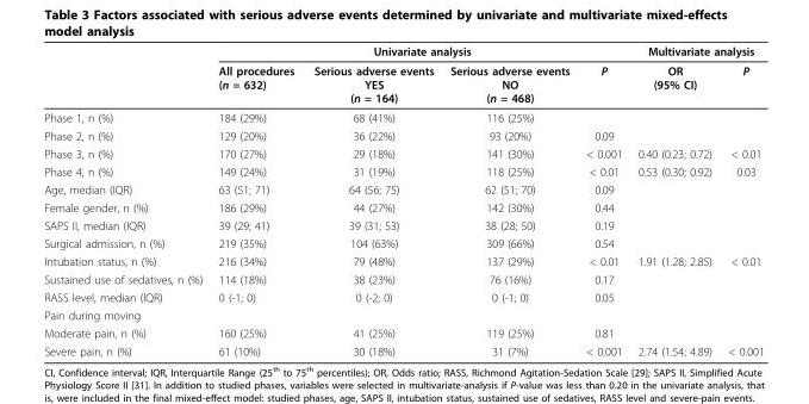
<table><thead><tr><td rowspan="2"></td><td colspan="4">Univariate analysis</td><td colspan="2">Multivariate analysis</td></tr><tr><td>All procedures (n = 632)</td><td>Serious adverse events YES (n = 164)</td><td>Serious adverse events NO (n = 468)</td><td>P</td><td>OR (95% CI)</td><td>P</td></tr></thead><tbody><tr><td>Phase 1, n (%)</td><td>184 (29%)</td><td>68 (41%)</td><td>116 (25%)</td><td></td><td></td><td></td></tr><tr><td>Phase 2, n (%)</td><td>129 (20%)</td><td>36 (22%)</td><td>93 (20%)</td><td>0.09</td><td></td><td></td></tr><tr><td>Phase 3, n (%)</td><td>170 (27%)</td><td>29 (18%)</td><td>141 (30%)</td><td>&lt; 0.001</td><td>0.40 (0.23; 0.72)</td><td>&lt; 0.01</td></tr><tr><td>Phase 4, n (%)</td><td>149 (24%)</td><td>31 (19%)</td><td>118 (25%)</td><td>&lt; 0.01</td><td>0.53 (0.30; 0.92)</td><td>0.03</td></tr><tr><td>Age, median (IQR)</td><td>63 (51; 71)</td><td>64 (56; 75)</td><td>62 (51; 70)</td><td>0.09</td><td></td><td></td></tr><tr><td>Female gender, n (%)</td><td>186 (29%)</td><td>44 (27%)</td><td>142 (30%)</td><td>0.44</td><td></td><td></td></tr><tr><td>SAPS II, median (IQR)</td><td>39 (29; 41)</td><td>39 (31; 53)</td><td>38 (28; 50)</td><td>0.19</td><td></td><td></td></tr><tr><td>Surgical admission, n (%)</td><td>219 (35%)</td><td>104 (63%)</td><td>309 (66%)</td><td>0.54</td><td></td><td></td></tr><tr><td>Intubation status, n (%)</td><td>216 (34%)</td><td>79 (48%)</td><td>137 (29%)</td><td>&lt; 0.01</td><td>1.91 (1.28; 2.85)</td><td>&lt; 0.01</td></tr><tr><td>Sustained use of sedatives, n (%)</td><td>114 (18%)</td><td>38 (23%)</td><td>76 (16%)</td><td>0.17</td><td></td><td></td></tr><tr><td>RASS level, median (IQR)</td><td>0 (-1; 0)</td><td>0 (-2; 0)</td><td>0 (-1; 0)</td><td>0.05</td><td></td><td></td></tr><tr><td colspan="7">Pain during moving</td></tr><tr><td>Moderate pain, n (%)</td><td>160 (25%)</td><td>41 (25%)</td><td>119 (25%)</td><td>0.81</td><td></td><td></td></tr><tr><td>Severe pain, n (%)</td><td>61 (10%)</td><td>30 (18%)</td><td>31 (7%)</td><td>&lt; 0.001</td><td>2.74 (1.54; 4.89)</td><td>&lt; 0.001</td></tr></tbody></table>